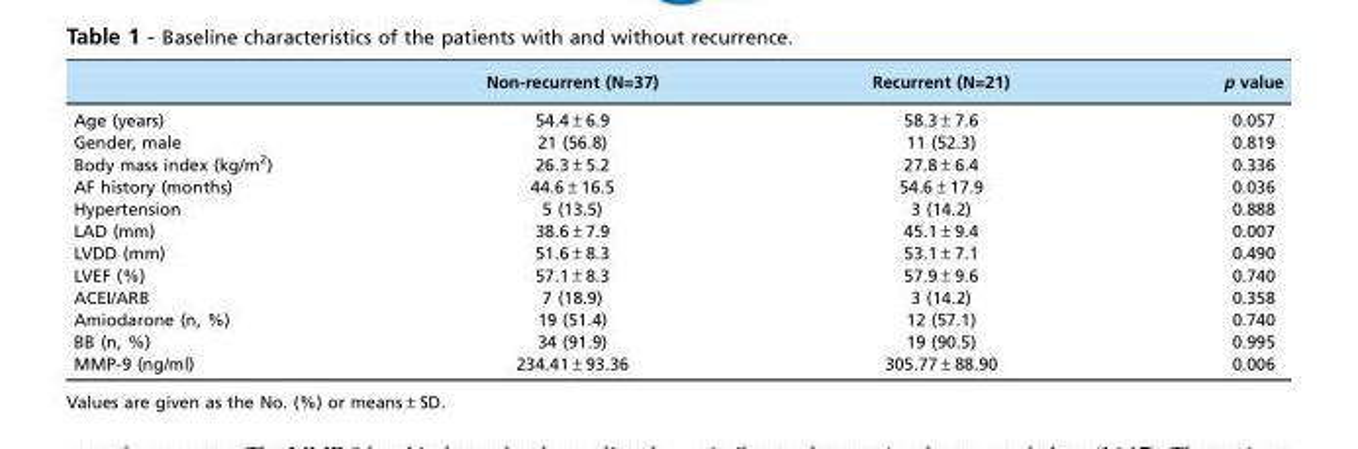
<table><thead><tr><td></td><td>Non-recurrent (N=37)</td><td>Recurrent (N=21)</td><td>p value</td></tr></thead><tbody><tr><td>Age (years)</td><td>54.4±6.9</td><td>58.3±7.6</td><td>0.057</td></tr><tr><td>Gender, male</td><td>21 (56.8)</td><td>11 (52.3)</td><td>0.819</td></tr><tr><td>Body mass index (kg/m<sup>2</sup>)</td><td>26.3±5.2</td><td>27.8±6.4</td><td>0.336</td></tr><tr><td>AF history (months)</td><td>44.6±16.5</td><td>54.6±17.9</td><td>0.036</td></tr><tr><td>Hypertension</td><td>5 (13.5)</td><td>3 (14.2)</td><td>0.888</td></tr><tr><td>LAD (mm)</td><td>38.6±7.9</td><td>45.1±9.4</td><td>0.007</td></tr><tr><td>LVDD (mm)</td><td>51.6±8.3</td><td>53.1±7.1</td><td>0.490</td></tr><tr><td>LVEF (%)</td><td>57.1±8.3</td><td>57.9±9.6</td><td>0.740</td></tr><tr><td>ACEI/ARB</td><td>7 (18.9)</td><td>3 (14.2)</td><td>0.358</td></tr><tr><td>Amiodarone (n, %)</td><td>19 (51.4)</td><td>12 (57.1)</td><td>0.740</td></tr><tr><td>BB (n, %)</td><td>34 (91.9)</td><td>19 (90.5)</td><td>0.995</td></tr><tr><td>MMP-9 (ng/ml)</td><td>234.41±93.36</td><td>305.77±88.90</td><td>0.006</td></tr></tbody></table>